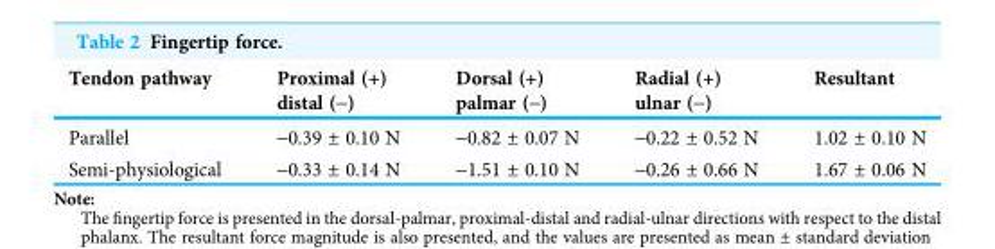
<table><thead><tr><td>Tendon pathway</td><td>Proximal (+) distal (-)</td><td>Dorsal (+) palmar (-)</td><td>Radial (+) ulnar (-)</td><td>Resultant</td></tr></thead><tbody><tr><td>Parallel</td><td>-0.39 ± 0.10 N</td><td>-0.82 ± 0.07 N</td><td>-0.22 ± 0.52 N</td><td>1.02 ± 0.10 N</td></tr><tr><td>Semi-physiological</td><td>-0.33 ± 0.14 N</td><td>-1.51 ± 0.10 N</td><td>-0.26 ± 0.66 N</td><td>1.67 ± 0.06 N</td></tr></tbody></table>